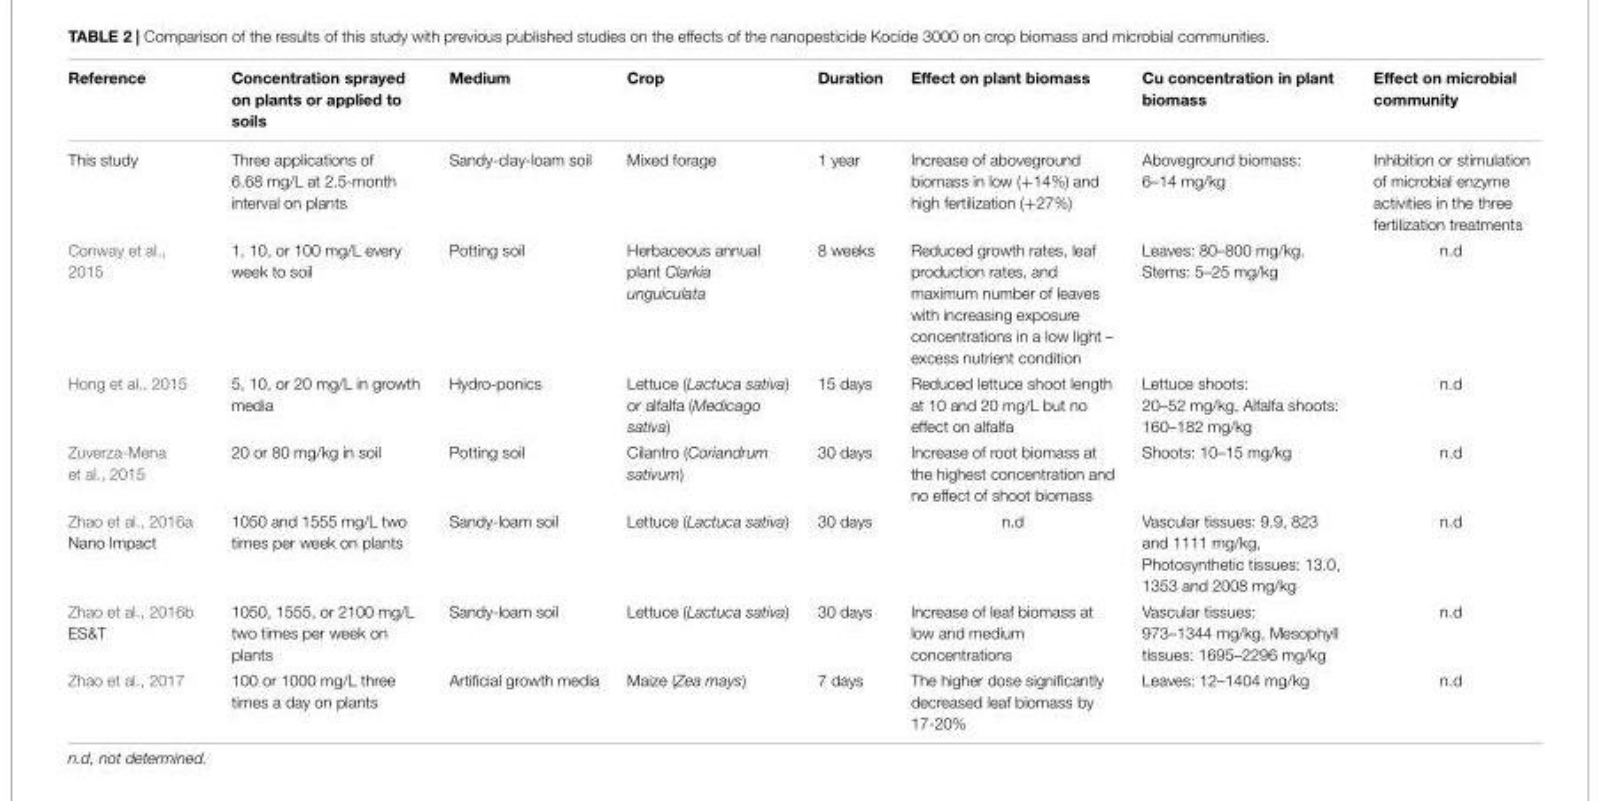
<table><thead><tr><td>Reference</td><td>Concentration sprayed on plants or applied to soils</td><td>Medium</td><td>Crop</td><td>Duration</td><td>Effect on plant biomass</td><td>Cu concentration in plant biomass</td><td>Effect on microbial community</td></tr></thead><tbody><tr><td>This study</td><td>Three applications of 6.68 mg/L at 2.5-month interval on plants</td><td>Sandy-clay-loam soil</td><td>Mixed forage</td><td>1 year</td><td>Increase of aboveground biomass in low (+14%) and high fertilization (+27%)</td><td>Aboveground biomass: 6–14 mg/kg</td><td>Inhibition or stimulation of microbial enzyme activities in the three fertilization treatments</td></tr><tr><td>Conway et al., 2015</td><td>1, 10, or 100 mg/L every week to soil</td><td>Potting soil</td><td>Herbaceous annual plant Clarkia unguiculata</td><td>8 weeks</td><td>Reduced growth rates, leaf production rates, and maximum number of leaves with increasing exposure concentrations in a low light – excess nutrient condition</td><td>Leaves: 80–800 mg/kg. Stems: 5–25 mg/kg</td><td>n.d</td></tr><tr><td>Hong et al., 2015</td><td>5, 10, or 20 mg/L in growth media</td><td>Hydro-ponics</td><td>Lettuce (Lactuca sativa) or alfalfa (Medicago sativa)</td><td>15 days</td><td>Reduced lettuce shoot length at 10 and 20 mg/L but no effect on alfalfa</td><td>Lettuce shoots: 20–52 mg/kg, Alfalfa shoots: 160–182 mg/kg</td><td>n.d</td></tr><tr><td>Zuverza-Mena et al., 2015</td><td>20 or 80 mg/kg in soil</td><td>Potting soil</td><td>Cilantro (Coriandrum sativum)</td><td>30 days</td><td>Increase of root biomass at the highest concentration and no effect of shoot biomass</td><td>Shoots: 10–15 mg/kg</td><td>n.d</td></tr><tr><td>Zhao et al., 2016a Nano Impact</td><td>1050 and 1555 mg/L two times per week on plants</td><td>Sandy-loam soil</td><td>Lettuce (Lactuca sativa)</td><td>30 days</td><td>n.d</td><td>Vascular tissues: 9.9, 823 and 1111 mg/kg, Photosynthetic tissues: 13.0, 1353 and 2008 mg/kg</td><td>n.d</td></tr><tr><td>Zhao et al., 2016b ES&amp;T</td><td>1050, 1555, or 2100 mg/L two times per week on plants</td><td>Sandy-loam soil</td><td>Lettuce (Lactuca sativa)</td><td>30 days</td><td>Increase of leaf biomass at low and medium concentrations</td><td>Vascular tissues: 973–1344 mg/kg, Mesophyll tissues: 1695–2296 mg/kg</td><td>n.d</td></tr><tr><td>Zhao et al., 2017</td><td>100 or 1000 mg/L three times a day on plants</td><td>Artificial growth media</td><td>Maize (Zea mays)</td><td>7 days</td><td>The higher dose significantly decreased leaf biomass by 17-20%</td><td>Leaves: 12–1404 mg/kg</td><td>n.d</td></tr></tbody></table>